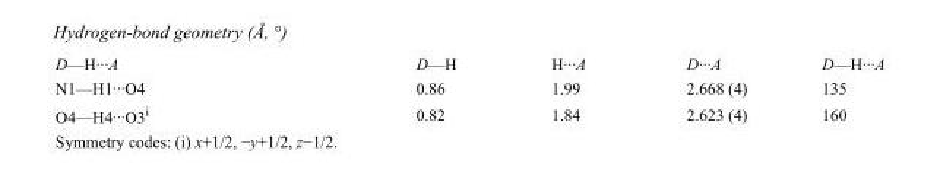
<table><tbody><tr><td>D—H···A</td><td>D—H</td><td>H···A</td><td>D···A</td><td>D—H···A</td></tr><tr><td>N1—H1···O4</td><td>0.86</td><td>1.99</td><td>2.668 (4)</td><td>135</td></tr><tr><td>O4—H4···O3<sup>i</sup></td><td>0.82</td><td>1.84</td><td>2.623 (4)</td><td>160</td></tr></tbody></table>